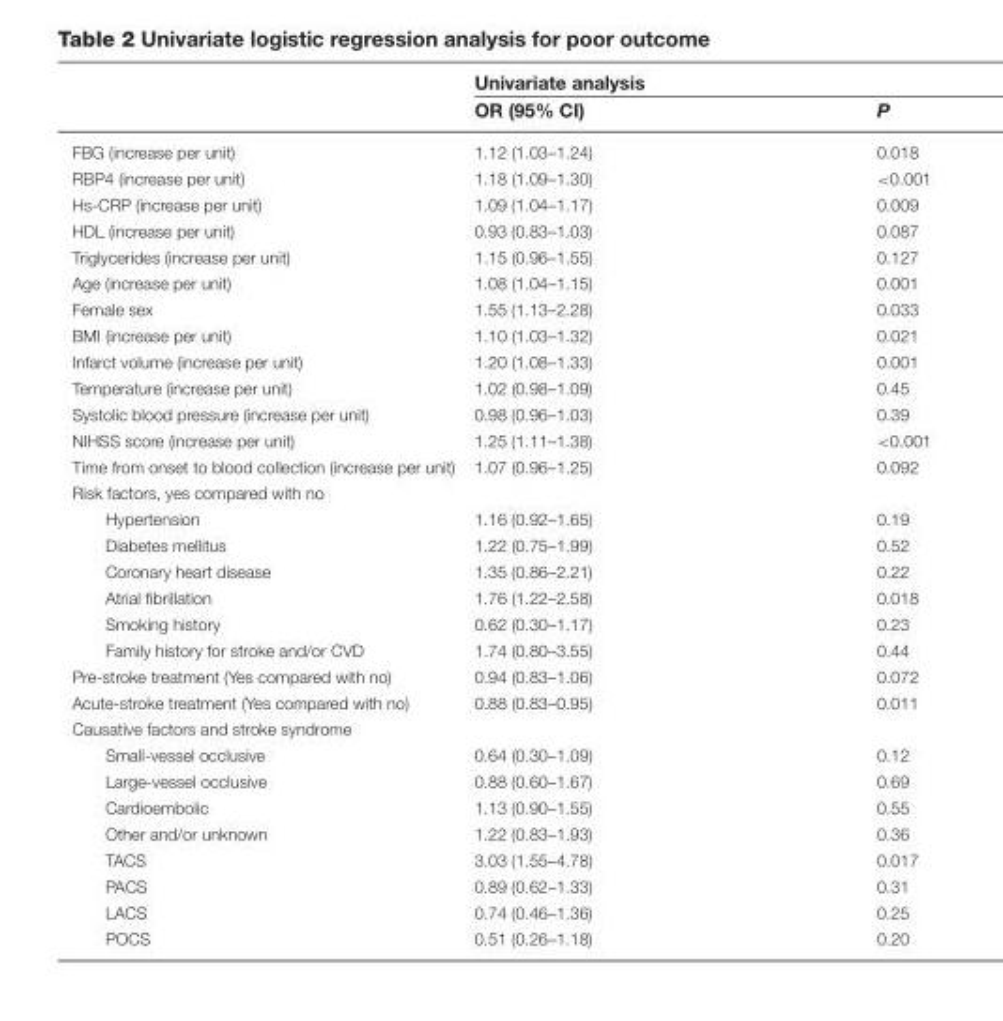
<table><thead><tr><td rowspan="2"></td><td colspan="2">Univariate analysis</td></tr><tr><td>OR (95% CI)</td><td>P</td></tr></thead><tbody><tr><td>FBG (increase per unit)</td><td>1.12 (1.03–1.24)</td><td>0.018</td></tr><tr><td>RBP4 (increase per unit)</td><td>1.18 (1.09–1.30)</td><td>&lt;0.001</td></tr><tr><td>Hs-CRP (increase per unit)</td><td>1.09 (1.04–1.17)</td><td>0.009</td></tr><tr><td>HDL (increase per unit)</td><td>0.93 (0.83–1.03)</td><td>0.087</td></tr><tr><td>Triglycerides (increase per unit)</td><td>1.15 (0.96–1.55)</td><td>0.127</td></tr><tr><td>Age (increase per unit)</td><td>1.08 (1.04–1.15)</td><td>0.001</td></tr><tr><td>Female sex</td><td>1.55 (1.13–2.28)</td><td>0.033</td></tr><tr><td>BMI (increase per unit)</td><td>1.10 (1.03–1.32)</td><td>0.021</td></tr><tr><td>Infarct volume (increase per unit)</td><td>1.20 (1.08–1.33)</td><td>0.001</td></tr><tr><td>Temperature (increase per unit)</td><td>1.02 (0.98–1.09)</td><td>0.45</td></tr><tr><td>Systolic blood pressure (increase per unit)</td><td>0.98 (0.96–1.03)</td><td>0.39</td></tr><tr><td>NIHSS score (increase per unit)</td><td>1.25 (1.11–1.38)</td><td>&lt;0.001</td></tr><tr><td>Time from onset to blood collection (increase per unit)</td><td>1.07 (0.96–1.25)</td><td>0.092</td></tr><tr><td colspan="3">Risk factors, yes compared with no</td></tr><tr><td>Hypertension</td><td>1.16 (0.92–1.65)</td><td>0.19</td></tr><tr><td>Diabetes mellitus</td><td>1.22 (0.75–1.99)</td><td>0.52</td></tr><tr><td>Coronary heart disease</td><td>1.35 (0.86–2.21)</td><td>0.22</td></tr><tr><td>Atrial fibrillation</td><td>1.76 (1.22–2.58)</td><td>0.018</td></tr><tr><td>Smoking history</td><td>0.62 (0.30–1.17)</td><td>0.23</td></tr><tr><td>Family history for stroke and/or CVD</td><td>1.74 (0.80–3.55)</td><td>0.44</td></tr><tr><td>Pre-stroke treatment (Yes compared with no)</td><td>0.94 (0.83–1.06)</td><td>0.072</td></tr><tr><td>Acute-stroke treatment (Yes compared with no)</td><td>0.88 (0.83–0.95)</td><td>0.011</td></tr><tr><td colspan="3">Causative factors and stroke syndrome</td></tr><tr><td>Small-vessel occlusive</td><td>0.64 (0.30–1.09)</td><td>0.12</td></tr><tr><td>Large-vessel occlusive</td><td>0.88 (0.60–1.67)</td><td>0.69</td></tr><tr><td>Cardioembolic</td><td>1.13 (0.90–1.55)</td><td>0.55</td></tr><tr><td>Other and/or unknown</td><td>1.22 (0.83–1.93)</td><td>0.36</td></tr><tr><td>TACS</td><td>3.03 (1.55–4.78)</td><td>0.017</td></tr><tr><td>PACS</td><td>0.89 (0.62–1.33)</td><td>0.31</td></tr><tr><td>LACS</td><td>0.74 (0.46–1.36)</td><td>0.25</td></tr><tr><td>POCS</td><td>0.51 (0.26–1.18)</td><td>0.20</td></tr></tbody></table>